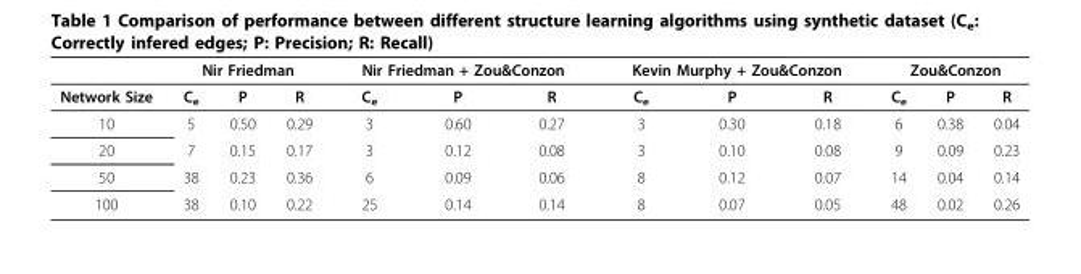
<table><thead><tr><td rowspan="2">Network Size</td><td colspan="3">Nir Friedman</td><td colspan="3">Nir Friedman + Zou&amp;Conzon</td><td colspan="3">Kevin Murphy + Zou&amp;Conzon</td><td colspan="3">Zou&amp;Conzon</td></tr><tr><td>Ce</td><td>P</td><td>R</td><td>Ce</td><td>P</td><td>R</td><td>Ce</td><td>P</td><td>R</td><td>Ce</td><td>P</td><td>R</td></tr></thead><tbody><tr><td>10</td><td>5</td><td>0.50</td><td>0.29</td><td>3</td><td>0.60</td><td>0.27</td><td>3</td><td>0.30</td><td>0.18</td><td>6</td><td>0.38</td><td>0.04</td></tr><tr><td>20</td><td>7</td><td>0.15</td><td>0.17</td><td>3</td><td>0.12</td><td>0.08</td><td>3</td><td>0.10</td><td>0.08</td><td>9</td><td>0.09</td><td>0.23</td></tr><tr><td>50</td><td>38</td><td>0.23</td><td>0.36</td><td>6</td><td>0.09</td><td>0.06</td><td>8</td><td>0.12</td><td>0.07</td><td>14</td><td>0.04</td><td>0.14</td></tr><tr><td>100</td><td>38</td><td>0.10</td><td>0.22</td><td>25</td><td>0.14</td><td>0.14</td><td>8</td><td>0.07</td><td>0.05</td><td>48</td><td>0.02</td><td>0.26</td></tr></tbody></table>